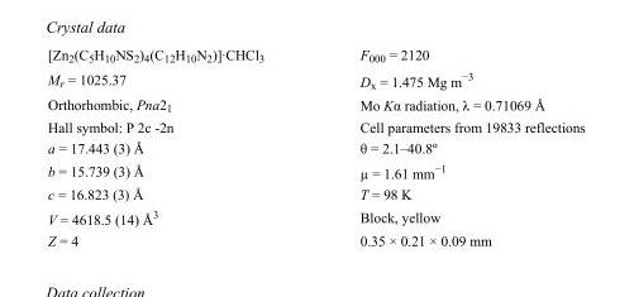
<table><tbody><tr><td>[Zn<sub>2</sub>(C<sub>5</sub>H<sub>10</sub>NS<sub>2</sub>)<sub>4</sub>(C<sub>12</sub>H<sub>10</sub>N<sub>2</sub>)]·CHCl<sub>3</sub></td><td>F000 = 2120</td></tr><tr><td>M<sub>r</sub> = 1025.37</td><td>D<sub>x</sub> = 1.475 Mg m<sup>−3</sup></td></tr><tr><td>Orthorhombic, Pna2<sub>1</sub></td><td>Mo Kα radiation, λ = 0.71069 Å</td></tr><tr><td>Hall symbol: P 2c -2n</td><td>Cell parameters from 19833 reflections</td></tr><tr><td>a = 17.443 (3) Å</td><td>θ = 2.1–40.8º</td></tr><tr><td>b = 15.739 (3) Å</td><td>µ = 1.61 mm<sup>−1</sup></td></tr><tr><td>c = 16.823 (3) Å</td><td>T = 98 K</td></tr><tr><td>V = 4618.5 (14) Å<sup>3</sup></td><td>Block, yellow</td></tr><tr><td>Z = 4</td><td>0.35 × 0.21 × 0.09 mm</td></tr></tbody></table>